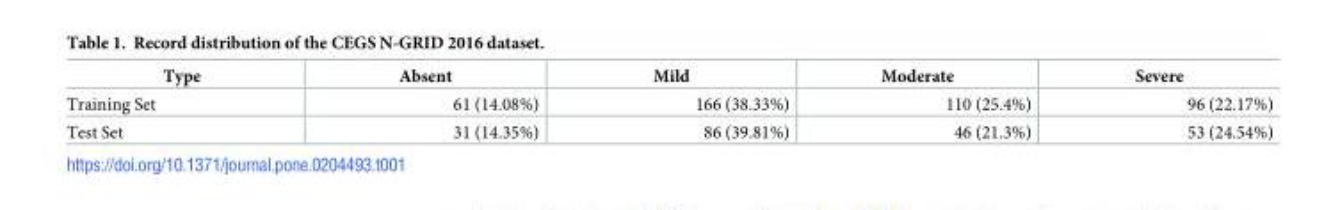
<table><thead><tr><td>Type</td><td>Absent</td><td>Mild</td><td>Moderate</td><td>Severe</td></tr></thead><tbody><tr><td>Training Set</td><td>61 (14.08%)</td><td>166 (38.33%)</td><td>110 (25.4%)</td><td>96 (22.17%)</td></tr><tr><td>Test Set</td><td>31 (14.35%)</td><td>86 (39.81%)</td><td>46 (21.3%)</td><td>53 (24.54%)</td></tr></tbody></table>